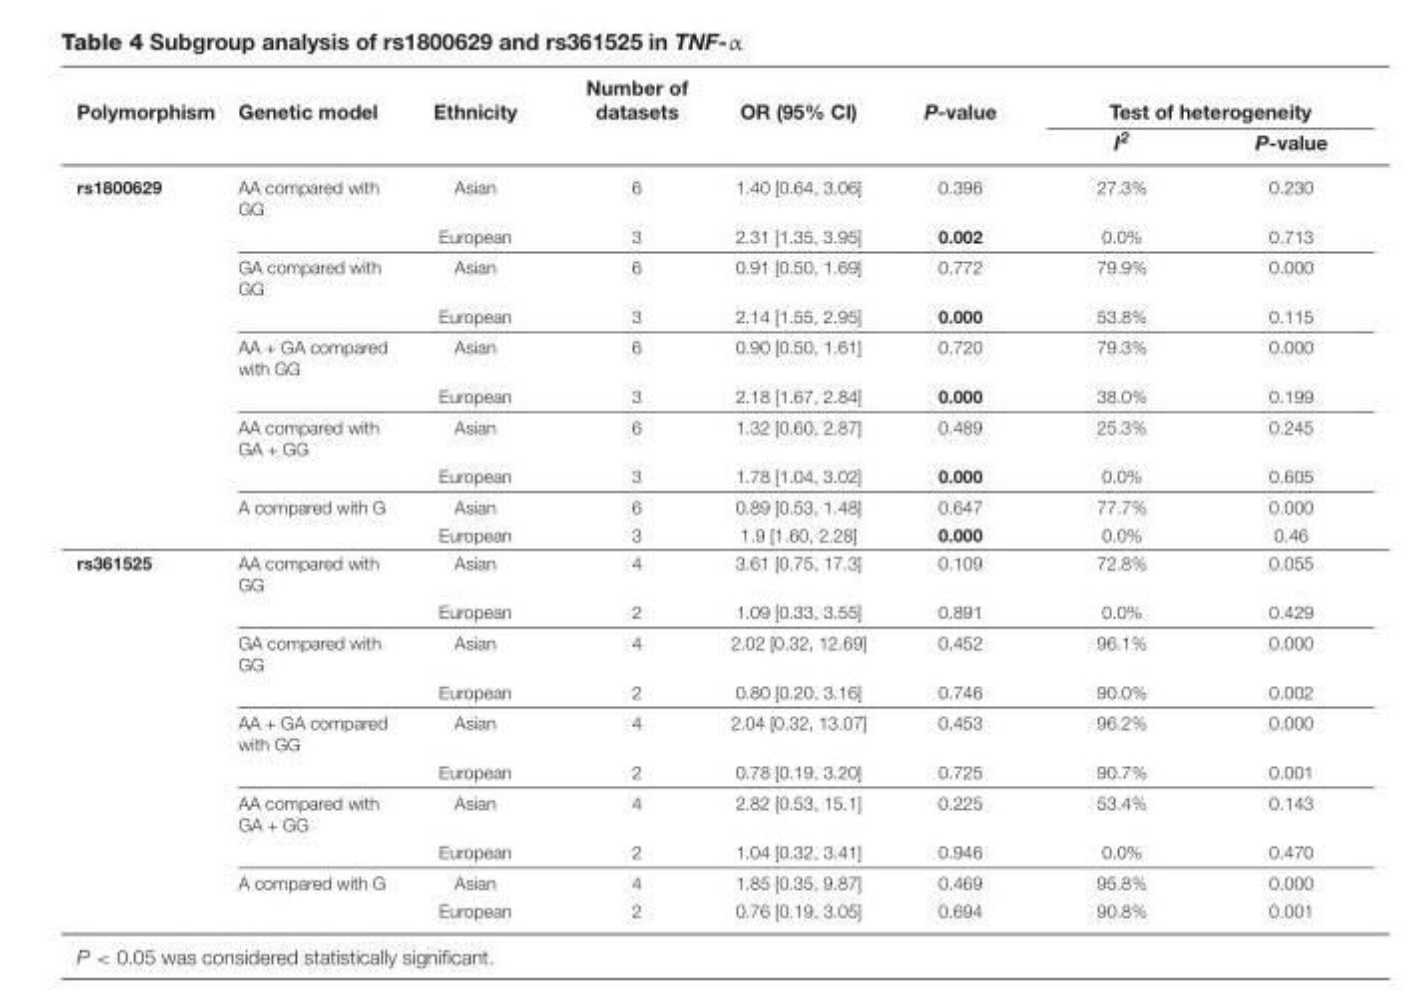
<table><thead><tr><td rowspan="2">Polymorphism</td><td rowspan="2">Genetic model</td><td rowspan="2">Ethnicity</td><td rowspan="2">Number of datasets</td><td rowspan="2">OR (95% CI)</td><td rowspan="2">P-value</td><td colspan="2">Test of heterogeneity</td></tr><tr><td>I<sup>2</sup></td><td>P-value</td></tr></thead><tbody><tr><td rowspan="10">rs1800629</td><td>AA compared with GG</td><td>Asian</td><td>6</td><td>1.40 [0.64, 3.06]</td><td>0.396</td><td>27.3%</td><td>0.230</td></tr><tr><td></td><td>European</td><td>3</td><td>2.31 [1.35, 3.95]</td><td>0.002</td><td>0.0%</td><td>0.713</td></tr><tr><td>GA compared with GG</td><td>Asian</td><td>6</td><td>0.91 [0.50, 1.69]</td><td>0.772</td><td>79.9%</td><td>0.000</td></tr><tr><td></td><td>European</td><td>3</td><td>2.14 [1.55, 2.95]</td><td>0.000</td><td>53.8%</td><td>0.115</td></tr><tr><td>AA + GA compared with GG</td><td>Asian</td><td>6</td><td>0.90 [0.50, 1.61]</td><td>0.720</td><td>79.3%</td><td>0.000</td></tr><tr><td></td><td>European</td><td>3</td><td>2.18 [1.67, 2.84]</td><td>0.000</td><td>38.0%</td><td>0.199</td></tr><tr><td>AA compared with GA + GG</td><td>Asian</td><td>6</td><td>1.32 [0.60, 2.87]</td><td>0.489</td><td>25.3%</td><td>0.245</td></tr><tr><td></td><td>European</td><td>3</td><td>1.78 [1.04, 3.02]</td><td>0.000</td><td>0.0%</td><td>0.605</td></tr><tr><td>A compared with G</td><td>Asian</td><td>6</td><td>0.89 [0.53, 1.48]</td><td>0.647</td><td>77.7%</td><td>0.000</td></tr><tr><td></td><td>European</td><td>3</td><td>1.9 [1.60, 2.28]</td><td>0.000</td><td>0.0%</td><td>0.46</td></tr><tr><td rowspan="10">rs361525</td><td>AA compared with GG</td><td>Asian</td><td>4</td><td>3.61 [0.75, 17.3]</td><td>0.109</td><td>72.8%</td><td>0.055</td></tr><tr><td></td><td>European</td><td>2</td><td>1.09 [0.33, 3.55]</td><td>0.891</td><td>0.0%</td><td>0.429</td></tr><tr><td>GA compared with GG</td><td>Asian</td><td>4</td><td>2.02 [0.32, 12.69]</td><td>0.452</td><td>96.1%</td><td>0.000</td></tr><tr><td></td><td>European</td><td>2</td><td>0.80 [0.20, 3.16]</td><td>0.746</td><td>90.0%</td><td>0.002</td></tr><tr><td>AA + GA compared with GG</td><td>Asian</td><td>4</td><td>2.04 [0.32, 13.07]</td><td>0.453</td><td>96.2%</td><td>0.000</td></tr><tr><td></td><td>European</td><td>2</td><td>0.78 [0.19, 3.20]</td><td>0.725</td><td>90.7%</td><td>0.001</td></tr><tr><td>AA compared with GA + GG</td><td>Asian</td><td>4</td><td>2.82 [0.53, 15.1]</td><td>0.225</td><td>53.4%</td><td>0.143</td></tr><tr><td></td><td>European</td><td>2</td><td>1.04 [0.32, 3.41]</td><td>0.946</td><td>0.0%</td><td>0.470</td></tr><tr><td>A compared with G</td><td>Asian</td><td>4</td><td>1.85 [0.35, 9.87]</td><td>0.469</td><td>95.8%</td><td>0.000</td></tr><tr><td></td><td>European</td><td>2</td><td>0.76 [0.19, 3.05]</td><td>0.694</td><td>90.8%</td><td>0.001</td></tr></tbody></table>